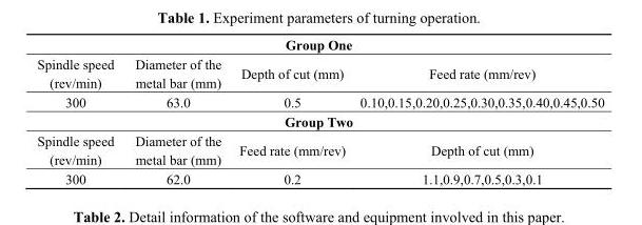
<table><thead><tr><td colspan="4">Group One</td></tr><tr><td>Spindle speed (rev/min)</td><td>Diameter of the metal bar (mm)</td><td>Depth of cut (mm)</td><td>Feed rate (mm/rev)</td></tr></thead><tbody><tr><td>300</td><td>63.0</td><td>0.5</td><td>0.10,0.15,0.20,0.25,0.30,0.35,0.40,0.45,0.50</td></tr><tr><td colspan="4">Group Two</td></tr><tr><td>Spindle speed (rev/min)</td><td>Diameter of the metal bar (mm)</td><td>Feed rate (mm/rev)</td><td>Depth of cut (mm)</td></tr><tr><td>300</td><td>62.0</td><td>0.2</td><td>1.1,0.9,0.7,0.5,0.3,0.1</td></tr></tbody></table>